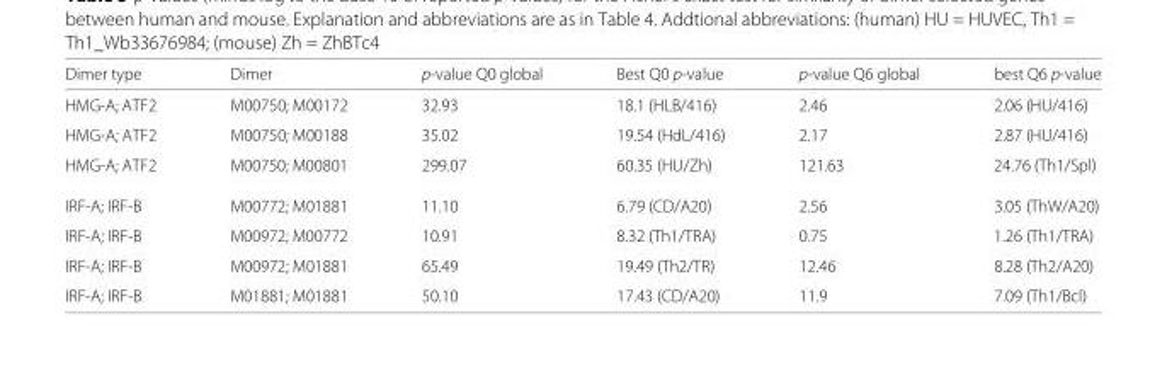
<table><thead><tr><td>Dimer type</td><td>Dimer</td><td>p-value Q0 global</td><td>Best Q0 p-value</td><td>p-value Q6 global</td><td>best Q6 p-value</td></tr></thead><tbody><tr><td>HMG-A; ATF2</td><td>M00750; M00172</td><td>32.93</td><td>18.1 (HLB/416)</td><td>2.46</td><td>2.06 (HU/416)</td></tr><tr><td>HMG-A; ATF2</td><td>M00750; M00188</td><td>35.02</td><td>19.54 (HdL/416)</td><td>2.17</td><td>2.87 (HU/416)</td></tr><tr><td>HMG-A; ATF2</td><td>M00750; M00801</td><td>299.07</td><td>60.35 (HU/Zh)</td><td>121.63</td><td>24.76 (Th1/Spl)</td></tr><tr><td>IRF-A; IRF-B</td><td>M00772; M01881</td><td>11.10</td><td>6.79 (CD/A20)</td><td>2.56</td><td>3.05 (ThW/A20)</td></tr><tr><td>IRF-A; IRF-B</td><td>M00972; M00772</td><td>10.91</td><td>8.32 (Th1/TRA)</td><td>0.75</td><td>1.26 (Th1/TRA)</td></tr><tr><td>IRF-A; IRF-B</td><td>M00972; M01881</td><td>65.49</td><td>19.49 (Th2/TR)</td><td>12.46</td><td>8.28 (Th2/A20)</td></tr><tr><td>IRF-A; IRF-B</td><td>M01881; M01881</td><td>50.10</td><td>17.43 (CD/A20)</td><td>11.9</td><td>7.09 (Th1/Bcl)</td></tr></tbody></table>